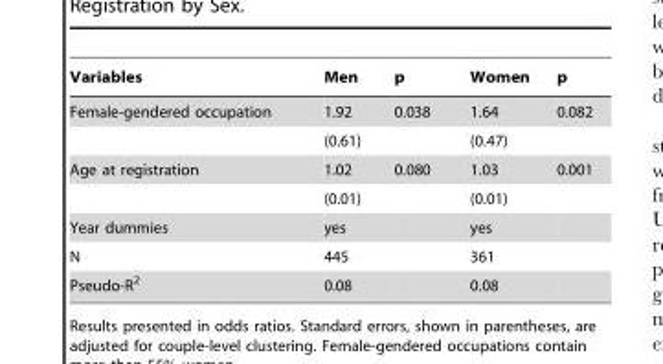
<table><thead><tr><td>Variables</td><td>Men</td><td>p</td><td>Women</td><td>p</td></tr></thead><tbody><tr><td rowspan="2">Female-gendered occupation</td><td>1.92</td><td>0.038</td><td>1.64</td><td>0.082</td></tr><tr><td>(0.61)</td><td></td><td>(0.47)</td><td></td></tr><tr><td rowspan="2">Age at registration</td><td>1.02</td><td>0.080</td><td>1.03</td><td>0.001</td></tr><tr><td>(0.01)</td><td></td><td>(0.01)</td><td></td></tr><tr><td>Year dummies</td><td>yes</td><td></td><td>yes</td><td></td></tr><tr><td>N</td><td>445</td><td></td><td>361</td><td></td></tr><tr><td>Pseudo-R<sup>2</sup></td><td>0.08</td><td></td><td>0.08</td><td></td></tr></tbody></table>